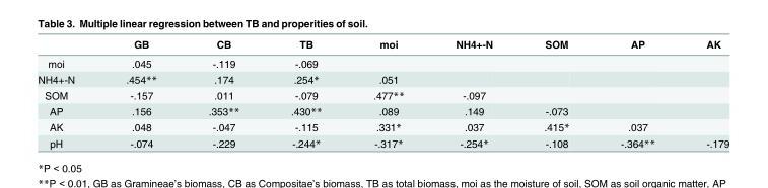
<table><thead><tr><td></td><td>GB</td><td>CB</td><td>TB</td><td>moi</td><td>NH4+-N</td><td>SOM</td><td>AP</td><td>AK</td></tr></thead><tbody><tr><td>moi</td><td>.045</td><td>-.119</td><td>-.069</td><td></td><td></td><td></td><td></td><td></td></tr><tr><td>NH4+-N</td><td>.454**</td><td>.174</td><td>.254*</td><td>.051</td><td></td><td></td><td></td><td></td></tr><tr><td>SOM</td><td>-.157</td><td>.011</td><td>-.079</td><td>.477**</td><td>-.097</td><td></td><td></td><td></td></tr><tr><td>AP</td><td>.156</td><td>.353**</td><td>.430**</td><td>.089</td><td>.149</td><td>-.073</td><td></td><td></td></tr><tr><td>AK</td><td>.048</td><td>-.047</td><td>-.115</td><td>.331*</td><td>.037</td><td>.415*</td><td>.037</td><td></td></tr><tr><td>pH</td><td>-.074</td><td>-.229</td><td>-.244*</td><td>-.317*</td><td>-.254*</td><td>-.108</td><td>-.364**</td><td>-.179</td></tr></tbody></table>